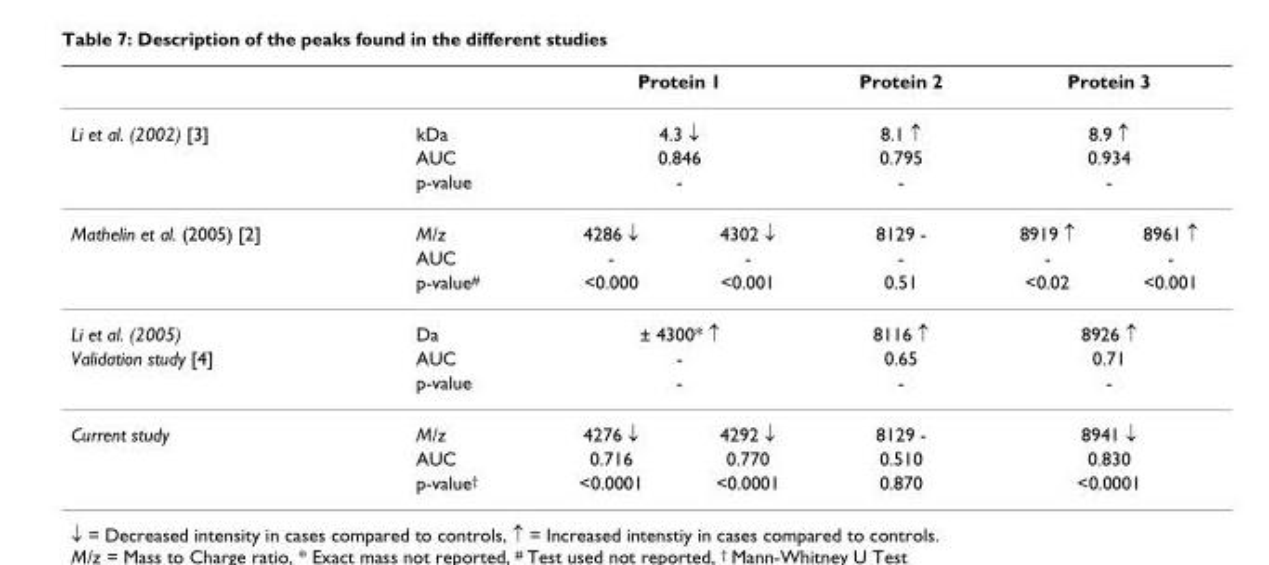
<table><thead><tr><td></td><td></td><td colspan="2">Protein 1</td><td>Protein 2</td><td colspan="2">Protein 3</td></tr></thead><tbody><tr><td rowspan="3">Li et al. (2002) [3]</td><td>kDa</td><td colspan="2">4.3 ↓</td><td>8.1 ↑</td><td colspan="2">8.9 ↑</td></tr><tr><td>AUC</td><td colspan="2">0.846</td><td>0.795</td><td colspan="2">0.934</td></tr><tr><td>p-value</td><td colspan="2">-</td><td>-</td><td colspan="2">-</td></tr><tr><td rowspan="3">Mathelin et al. (2005) [2]</td><td>M/z</td><td>4286 ↓</td><td>4302 ↓</td><td>8129 -</td><td>8919 ↑</td><td>8961 ↑</td></tr><tr><td>AUC</td><td>-</td><td>-</td><td>-</td><td>-</td><td>-</td></tr><tr><td>p-value<sup>#</sup></td><td>&lt;0.000</td><td>&lt;0.001</td><td>0.51</td><td>&lt;0.02</td><td>&lt;0.001</td></tr><tr><td>Li et al. (2005)</td><td>Da</td><td colspan="2">± 4300* ↑</td><td>8116 ↑</td><td colspan="2">8926 ↑</td></tr><tr><td rowspan="2">Validation study [4]</td><td>AUC</td><td colspan="2">-</td><td>0.65</td><td colspan="2">0.71</td></tr><tr><td>p-value</td><td colspan="2">-</td><td>-</td><td colspan="2">-</td></tr><tr><td rowspan="3">Current study</td><td>M/z</td><td>4276 ↓</td><td>4292 ↓</td><td>8129 -</td><td colspan="2">8941 ↓</td></tr><tr><td>AUC</td><td>0.716</td><td>0.770</td><td>0.510</td><td colspan="2">0.830</td></tr><tr><td>p-value<sup>†</sup></td><td>&lt;0.0001</td><td>&lt;0.0001</td><td>0.870</td><td colspan="2">&lt;0.0001</td></tr></tbody></table>